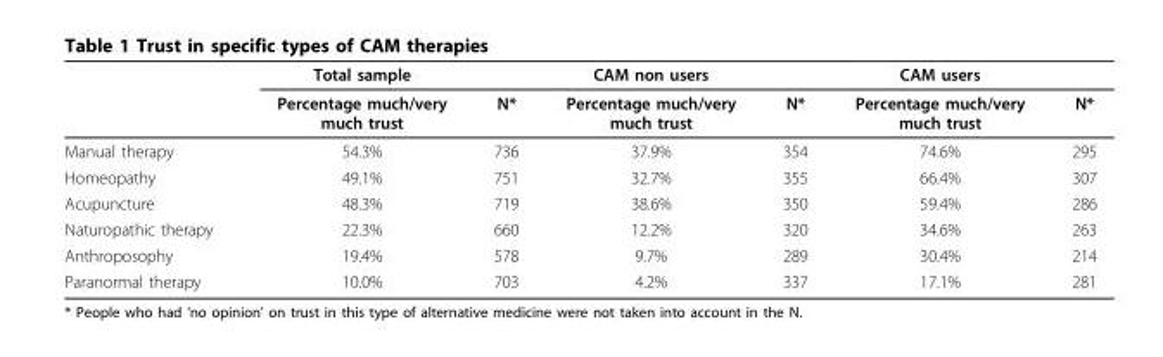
<table><thead><tr><td rowspan="2"></td><td rowspan="2">Total sample Percentage much/very much trust</td><td rowspan="2">N*</td><td rowspan="2">CAM non users Percentage much/very much trust</td><td rowspan="2">N*</td><td rowspan="2">CAM users Percentage much/very much trust</td><td rowspan="2">N*</td></tr><tr></tr></thead><tbody><tr><td>Manual therapy</td><td>54.3%</td><td>736</td><td>37.9%</td><td>354</td><td>74.6%</td><td>295</td></tr><tr><td>Homeopathy</td><td>49.1%</td><td>751</td><td>32.7%</td><td>355</td><td>66.4%</td><td>307</td></tr><tr><td>Acupuncture</td><td>48.3%</td><td>719</td><td>38.6%</td><td>350</td><td>59.4%</td><td>286</td></tr><tr><td>Naturopathic therapy</td><td>22.3%</td><td>660</td><td>12.2%</td><td>320</td><td>34.6%</td><td>263</td></tr><tr><td>Anthroposophy</td><td>19.4%</td><td>578</td><td>9.7%</td><td>289</td><td>30.4%</td><td>214</td></tr><tr><td>Paranormal therapy</td><td>10.0%</td><td>703</td><td>4.2%</td><td>337</td><td>17.1%</td><td>281</td></tr></tbody></table>